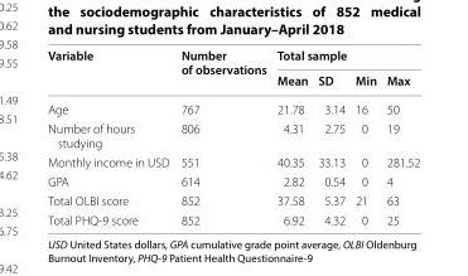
<table><thead><tr><td rowspan="2">Variable</td><td rowspan="2">Number of observations</td><td colspan="4">Total sample</td></tr><tr><td>Mean</td><td>SD</td><td>Min</td><td>Max</td></tr></thead><tbody><tr><td>Age</td><td>767</td><td>21.78</td><td>3.14</td><td>16</td><td>50</td></tr><tr><td>Number of hours studying</td><td>806</td><td>4.31</td><td>2.75</td><td>0</td><td>19</td></tr><tr><td>Monthly income in USD</td><td>551</td><td>40.35</td><td>33.13</td><td>0</td><td>281.52</td></tr><tr><td>GPA</td><td>614</td><td>2.82</td><td>0.54</td><td>0</td><td>4</td></tr><tr><td>Total OLBI score</td><td>852</td><td>37.58</td><td>5.37</td><td>21</td><td>63</td></tr><tr><td>Total PHQ-9 score</td><td>852</td><td>6.92</td><td>4.32</td><td>0</td><td>25</td></tr></tbody></table>